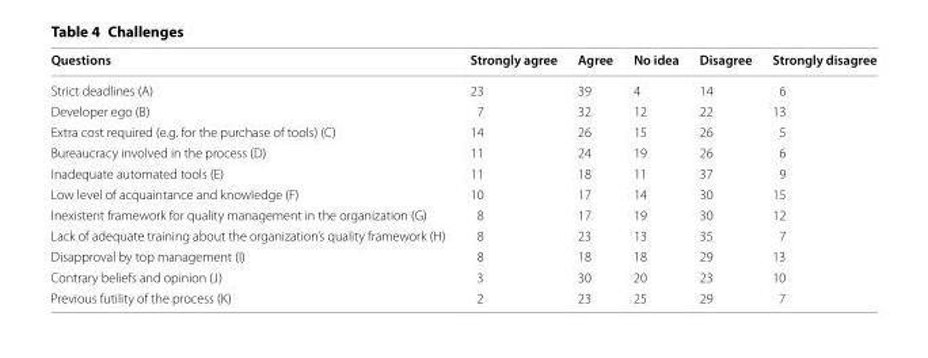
<table><thead><tr><td>Questions</td><td>Strongly agree</td><td>Agree</td><td>No idea</td><td>Disagree</td><td>Strongly disagree</td></tr></thead><tbody><tr><td>Strict deadlines (A)</td><td>23</td><td>39</td><td>4</td><td>14</td><td>6</td></tr><tr><td>Developer ego (B)</td><td>7</td><td>32</td><td>12</td><td>22</td><td>13</td></tr><tr><td>Extra cost required (e.g. for the purchase of tools) (C)</td><td>14</td><td>26</td><td>15</td><td>26</td><td>5</td></tr><tr><td>Bureaucracy involved in the process (D)</td><td>11</td><td>24</td><td>19</td><td>26</td><td>6</td></tr><tr><td>Inadequate automated tools (E)</td><td>11</td><td>18</td><td>11</td><td>37</td><td>9</td></tr><tr><td>Low level of acquaintance and knowledge (F)</td><td>10</td><td>17</td><td>14</td><td>30</td><td>15</td></tr><tr><td>Inexistent framework for quality management in the organization (G)</td><td>8</td><td>17</td><td>19</td><td>30</td><td>12</td></tr><tr><td>Lack of adequate training about the organization’s quality framework (H)</td><td>8</td><td>23</td><td>13</td><td>35</td><td>7</td></tr><tr><td>Disapproval by top management (I)</td><td>8</td><td>18</td><td>18</td><td>29</td><td>13</td></tr><tr><td>Contrary beliefs and opinion (J)</td><td>3</td><td>30</td><td>20</td><td>23</td><td>10</td></tr><tr><td>Previous futility of the process (K)</td><td>2</td><td>23</td><td>25</td><td>29</td><td>7</td></tr></tbody></table>